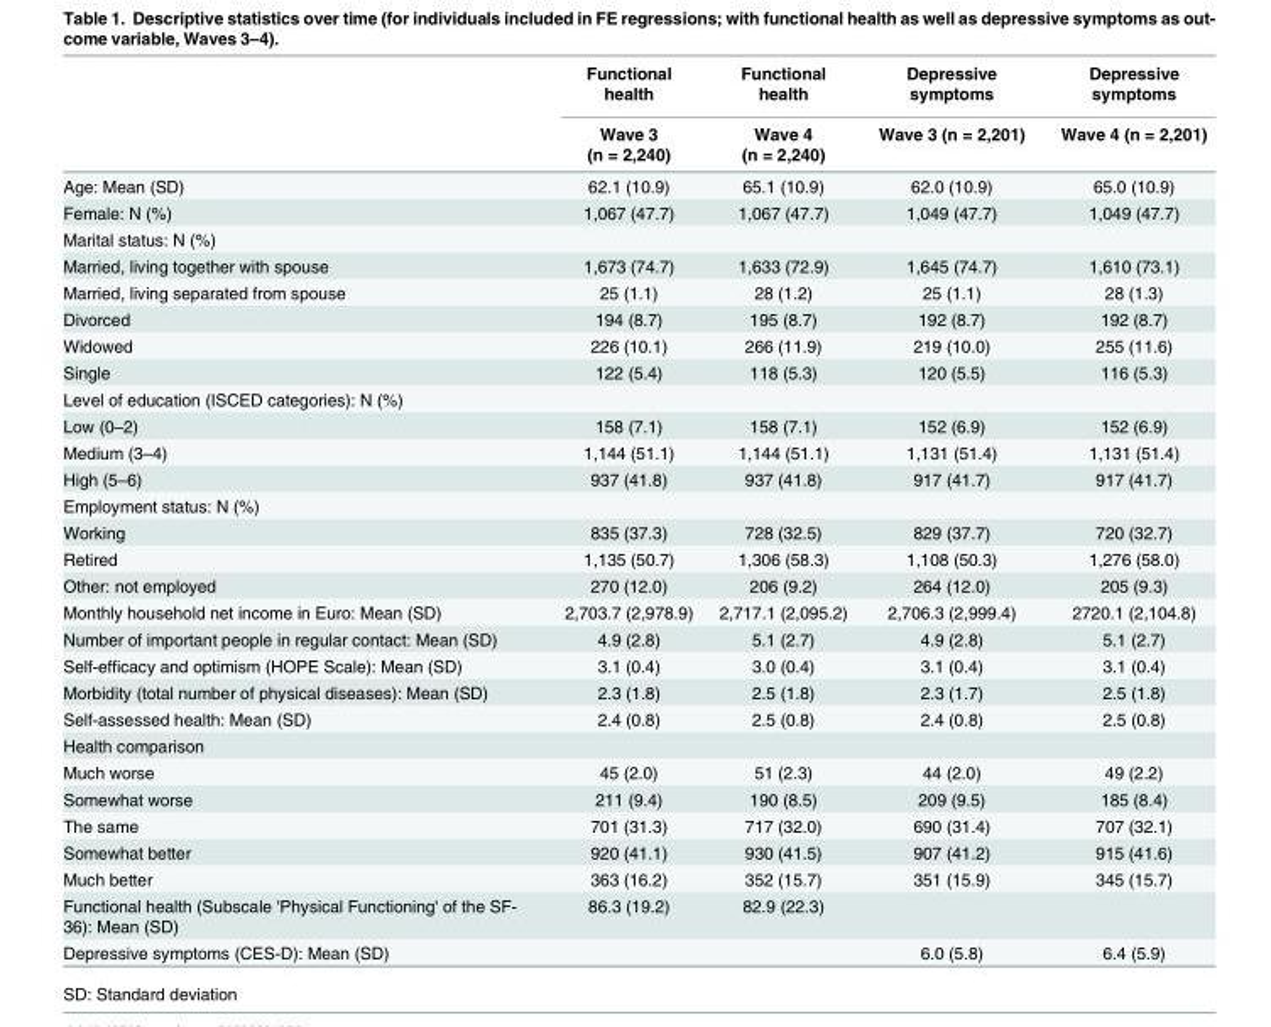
<table><thead><tr><td rowspan="2"></td><td rowspan="2">Functional health Wave 3 (n = 2,240)</td><td rowspan="2">Functional health Wave 4 (n = 2,240)</td><td rowspan="2">Depressive symptoms Wave 3 (n = 2,201)</td><td rowspan="2">Depressive symptoms Wave 4 (n = 2,201)</td></tr><tr></tr></thead><tbody><tr><td>Age: Mean (SD)</td><td>62.1 (10.9)</td><td>65.1 (10.9)</td><td>62.0 (10.9)</td><td>65.0 (10.9)</td></tr><tr><td>Female: N (%)</td><td>1,067 (47.7)</td><td>1,067 (47.7)</td><td>1,049 (47.7)</td><td>1,049 (47.7)</td></tr><tr><td colspan="5">Marital status: N (%)</td></tr><tr><td>Married, living together with spouse</td><td>1,673 (74.7)</td><td>1,633 (72.9)</td><td>1,645 (74.7)</td><td>1,610 (73.1)</td></tr><tr><td>Married, living separated from spouse</td><td>25 (1.1)</td><td>28 (1.2)</td><td>25 (1.1)</td><td>28 (1.3)</td></tr><tr><td>Divorced</td><td>194 (8.7)</td><td>195 (8.7)</td><td>192 (8.7)</td><td>192 (8.7)</td></tr><tr><td>Widowed</td><td>226 (10.1)</td><td>266 (11.9)</td><td>219 (10.0)</td><td>255 (11.6)</td></tr><tr><td>Single</td><td>122 (5.4)</td><td>118 (5.3)</td><td>120 (5.5)</td><td>116 (5.3)</td></tr><tr><td colspan="5">Level of education (ISCED categories): N (%)</td></tr><tr><td>Low (0–2)</td><td>158 (7.1)</td><td>158 (7.1)</td><td>152 (6.9)</td><td>152 (6.9)</td></tr><tr><td>Medium (3–4)</td><td>1,144 (51.1)</td><td>1,144 (51.1)</td><td>1,131 (51.4)</td><td>1,131 (51.4)</td></tr><tr><td>High (5–6)</td><td>937 (41.8)</td><td>937 (41.8)</td><td>917 (41.7)</td><td>917 (41.7)</td></tr><tr><td colspan="5">Employment status: N (%)</td></tr><tr><td>Working</td><td>835 (37.3)</td><td>728 (32.5)</td><td>829 (37.7)</td><td>720 (32.7)</td></tr><tr><td>Retired</td><td>1,135 (50.7)</td><td>1,306 (58.3)</td><td>1,108 (50.3)</td><td>1,276 (58.0)</td></tr><tr><td>Other: not employed</td><td>270 (12.0)</td><td>206 (9.2)</td><td>264 (12.0)</td><td>205 (9.3)</td></tr><tr><td>Monthly household net income in Euro: Mean (SD)</td><td>2,703.7 (2,978.9)</td><td>2,717.1 (2,095.2)</td><td>2,706.3 (2,999.4)</td><td>2720.1 (2,104.8)</td></tr><tr><td>Number of important people in regular contact: Mean (SD)</td><td>4.9 (2.8)</td><td>5.1 (2.7)</td><td>4.9 (2.8)</td><td>5.1 (2.7)</td></tr><tr><td>Self-efficacy and optimism (HOPE Scale): Mean (SD)</td><td>3.1 (0.4)</td><td>3.0 (0.4)</td><td>3.1 (0.4)</td><td>3.1 (0.4)</td></tr><tr><td>Morbidity (total number of physical diseases): Mean (SD)</td><td>2.3 (1.8)</td><td>2.5 (1.8)</td><td>2.3 (1.7)</td><td>2.5 (1.8)</td></tr><tr><td>Self-assessed health: Mean (SD)</td><td>2.4 (0.8)</td><td>2.5 (0.8)</td><td>2.4 (0.8)</td><td>2.5 (0.8)</td></tr><tr><td colspan="5">Health comparison</td></tr><tr><td>Much worse</td><td>45 (2.0)</td><td>51 (2.3)</td><td>44 (2.0)</td><td>49 (2.2)</td></tr><tr><td>Somewhat worse</td><td>211 (9.4)</td><td>190 (8.5)</td><td>209 (9.5)</td><td>185 (8.4)</td></tr><tr><td>The same</td><td>701 (31.3)</td><td>717 (32.0)</td><td>690 (31.4)</td><td>707 (32.1)</td></tr><tr><td>Somewhat better</td><td>920 (41.1)</td><td>930 (41.5)</td><td>907 (41.2)</td><td>915 (41.6)</td></tr><tr><td>Much better</td><td>363 (16.2)</td><td>352 (15.7)</td><td>351 (15.9)</td><td>345 (15.7)</td></tr><tr><td>Functional health (Subscale &#x27;Physical Functioning&#x27; of the SF- 36): Mean (SD)</td><td>86.3 (19.2)</td><td>82.9 (22.3)</td><td></td><td></td></tr><tr><td>Depressive symptoms (CES-D): Mean (SD)</td><td></td><td></td><td>6.0 (5.8)</td><td>6.4 (5.9)</td></tr></tbody></table>